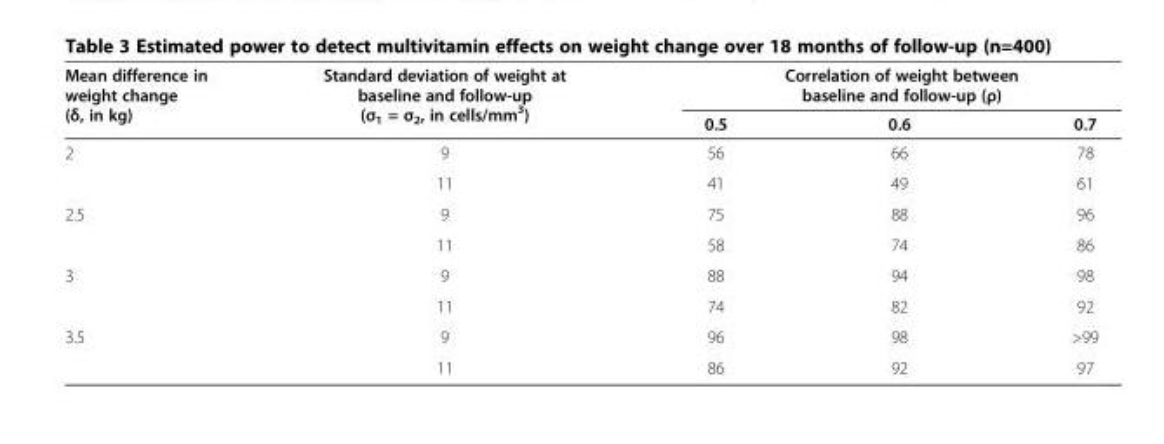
<table><thead><tr><td rowspan="2">Mean difference in weight change (δ, in kg)</td><td rowspan="2">Standard deviation of weight at baseline and follow-up (σ<sub>1</sub> = σ<sub>2</sub>, in cells/mm<sup>3</sup>)</td><td rowspan="2">0.5</td><td rowspan="2">Correlation of weight between baseline and follow-up (ρ) 0.6</td><td rowspan="2">0.7</td></tr><tr></tr></thead><tbody><tr><td rowspan="2">2</td><td>9</td><td>56</td><td>66</td><td>78</td></tr><tr><td>11</td><td>41</td><td>49</td><td>61</td></tr><tr><td rowspan="2">2.5</td><td>9</td><td>75</td><td>88</td><td>96</td></tr><tr><td>11</td><td>58</td><td>74</td><td>86</td></tr><tr><td rowspan="2">3</td><td>9</td><td>88</td><td>94</td><td>98</td></tr><tr><td>11</td><td>74</td><td>82</td><td>92</td></tr><tr><td rowspan="2">3.5</td><td>9</td><td>96</td><td>98</td><td>&gt;99</td></tr><tr><td>11</td><td>86</td><td>92</td><td>97</td></tr></tbody></table>